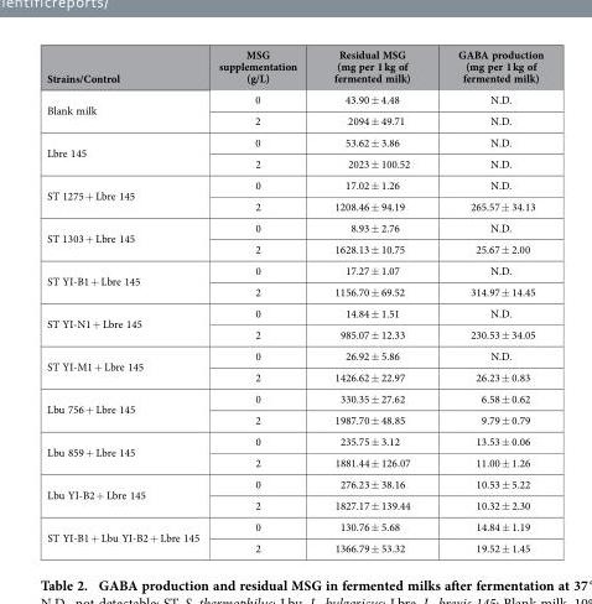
<table><thead><tr><td>Strains/Control</td><td>MSG supplementation (g/L)</td><td>Residual MSG (mg per 1 kg of fermented milk)</td><td>GABA production (mg per 1 kg of fermented milk)</td></tr></thead><tbody><tr><td rowspan="2">Blank milk</td><td>0</td><td>43.90 ± 4.48</td><td>N.D.</td></tr><tr><td>2</td><td>2094 ± 49.71</td><td>N.D.</td></tr><tr><td rowspan="2">Lbre 145</td><td>0</td><td>53.62 ± 3.86</td><td>N.D.</td></tr><tr><td>2</td><td>2023 ± 100.52</td><td>N.D.</td></tr><tr><td rowspan="2">ST 1275 + Lbre 145</td><td>0</td><td>17.02 ± 1.26</td><td>N.D.</td></tr><tr><td>2</td><td>1208.46 ± 94.19</td><td>265.57 ± 34.13</td></tr><tr><td rowspan="2">ST 1303 + Lbre 145</td><td>0</td><td>8.93 ± 2.76</td><td>N.D.</td></tr><tr><td>2</td><td>1628.13 ± 10.75</td><td>25.67 ± 2.00</td></tr><tr><td rowspan="2">ST YI-B1 + Lbre 145</td><td>0</td><td>17.27 ± 1.07</td><td>N.D.</td></tr><tr><td>2</td><td>1156.70 ± 69.52</td><td>314.97 ± 14.45</td></tr><tr><td rowspan="2">ST YI-N1 + Lbre 145</td><td>0</td><td>14.84 ± 1.51</td><td>N.D.</td></tr><tr><td>2</td><td>985.07 ± 12.33</td><td>230.53 ± 34.05</td></tr><tr><td rowspan="2">ST YI-M1 + Lbre 145</td><td>0</td><td>26.92 ± 5.86</td><td>N.D.</td></tr><tr><td>2</td><td>1426.62 ± 22.97</td><td>26.23 ± 0.83</td></tr><tr><td rowspan="2">Lbu 756 + Lbre 145</td><td>0</td><td>330.35 ± 27.62</td><td>6.58 ± 0.62</td></tr><tr><td>2</td><td>1987.70 ± 48.85</td><td>9.79 ± 0.79</td></tr><tr><td rowspan="2">Lbu 859 + Lbre 145</td><td>0</td><td>235.75 ± 3.12</td><td>13.53 ± 0.06</td></tr><tr><td>2</td><td>1881.44 ± 126.07</td><td>11.00 ± 1.26</td></tr><tr><td rowspan="2">Lbu YI-B2 + Lbre 145</td><td>0</td><td>276.23 ± 38.16</td><td>10.53 ± 5.22</td></tr><tr><td>2</td><td>1827.17 ± 139.44</td><td>10.32 ± 2.30</td></tr><tr><td rowspan="2">ST YI-B1 + Lbu YI-B2 + Lbre 145</td><td>0</td><td>130.76 ± 5.68</td><td>14.84 ± 1.19</td></tr><tr><td>2</td><td>1366.79 ± 53.32</td><td>19.52 ± 1.45</td></tr></tbody></table>